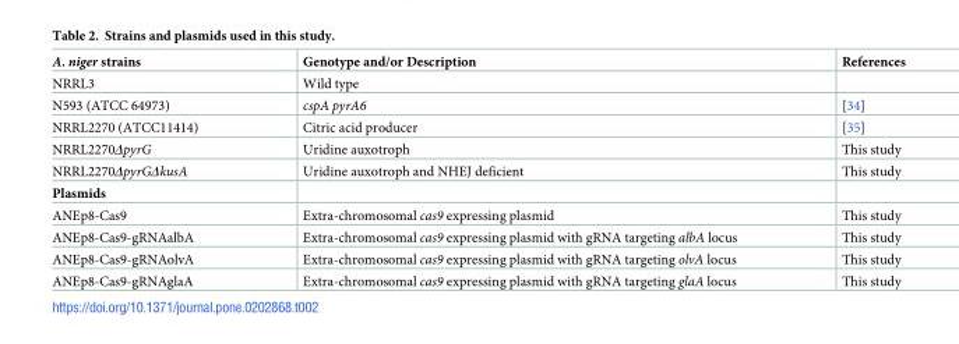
<table><tbody><tr><td>A. niger strains</td><td>Genotype and/or Description</td><td>References</td></tr><tr><td>NRRL3</td><td>Wild type</td><td></td></tr><tr><td>N593 (ATCC 64973)</td><td>cspA pyrA6</td><td>[34]</td></tr><tr><td>NRRL2270 (ATCC11414)</td><td>Citric acid producer</td><td>[35]</td></tr><tr><td>NRRL2270ΔpyrG</td><td>Uridine auxotroph</td><td>This study</td></tr><tr><td>NRRL2270ΔpyrGΔkusA</td><td>Uridine auxotroph and NHEJ deficient</td><td>This study</td></tr><tr><td colspan="3">Plasmids</td></tr><tr><td>ANEp8-Cas9</td><td>Extra-chromosomal cas9 expressing plasmid</td><td>This study</td></tr><tr><td>ANEp8-Cas9-gRNAalbA</td><td>Extra-chromosomal cas9 expressing plasmid with gRNA targeting albA locus</td><td>This study</td></tr><tr><td>ANEp8-Cas9-gRNAolvA</td><td>Extra-chromosomal cas9 expressing plasmid with gRNA targeting olvA locus</td><td>This study</td></tr><tr><td>ANEp8-Cas9-gRNAglaA</td><td>Extra-chromosomal cas9 expressing plasmid with gRNA targeting glaA locus</td><td>This study</td></tr></tbody></table>